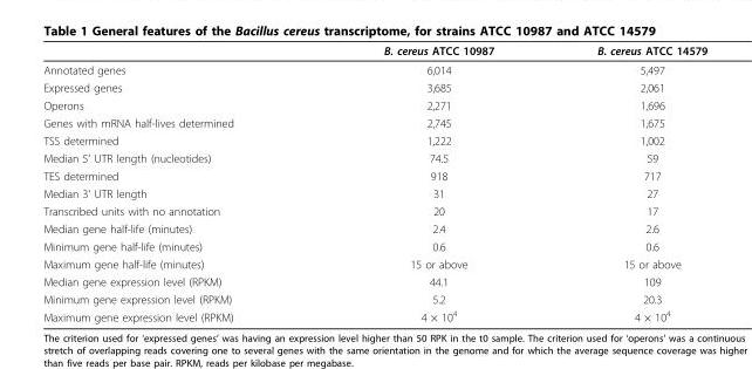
<table><thead><tr><td></td><td>B. cereus ATCC 10987</td><td>B. cereus ATCC 14579</td></tr></thead><tbody><tr><td>Annotated genes</td><td>6,014</td><td>5,497</td></tr><tr><td>Expressed genes</td><td>3,685</td><td>2,061</td></tr><tr><td>Operons</td><td>2,271</td><td>1,696</td></tr><tr><td>Genes with mRNA half-lives determined</td><td>2,745</td><td>1,675</td></tr><tr><td>TSS determined</td><td>1,222</td><td>1,002</td></tr><tr><td>Median 5’ UTR length (nucleotides)</td><td>74.5</td><td>59</td></tr><tr><td>TES determined</td><td>918</td><td>717</td></tr><tr><td>Median 3’ UTR length</td><td>31</td><td>27</td></tr><tr><td>Transcribed units with no annotation</td><td>20</td><td>17</td></tr><tr><td>Median gene half-life (minutes)</td><td>2.4</td><td>2.6</td></tr><tr><td>Minimum gene half-life (minutes)</td><td>0.6</td><td>0.6</td></tr><tr><td>Maximum gene half-life (minutes)</td><td>15 or above</td><td>15 or above</td></tr><tr><td>Median gene expression level (RPKM)</td><td>44.1</td><td>109</td></tr><tr><td>Minimum gene expression level (RPKM)</td><td>5.2</td><td>20.3</td></tr><tr><td>Maximum gene expression level (RPKM)</td><td>4 × 10<sup>4</sup></td><td>4 × 10<sup>4</sup></td></tr></tbody></table>